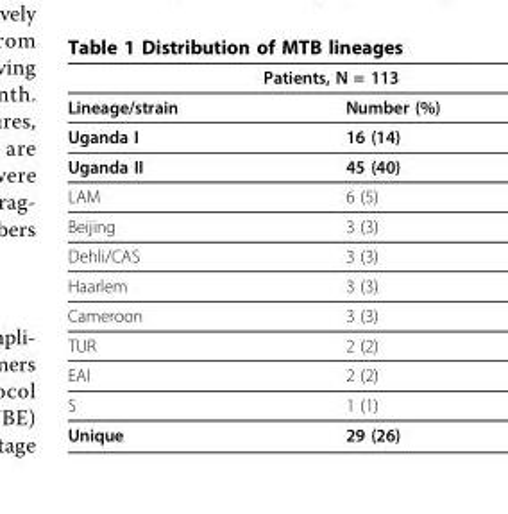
<table><thead><tr><td colspan="2">Patients, N = 113</td></tr><tr><td>Lineage/strain</td><td>Number (%)</td></tr></thead><tbody><tr><td>Uganda I</td><td>16 (14)</td></tr><tr><td>Uganda II</td><td>45 (40)</td></tr><tr><td>LAM</td><td>6 (5)</td></tr><tr><td>Beijing</td><td>3 (3)</td></tr><tr><td>Dehli/CAS</td><td>3 (3)</td></tr><tr><td>Haarlem</td><td>3 (3)</td></tr><tr><td>Cameroon</td><td>3 (3)</td></tr><tr><td>TUR</td><td>2 (2)</td></tr><tr><td>EAI</td><td>2 (2)</td></tr><tr><td>S</td><td>1 (1)</td></tr><tr><td>Unique</td><td>29 (26)</td></tr></tbody></table>